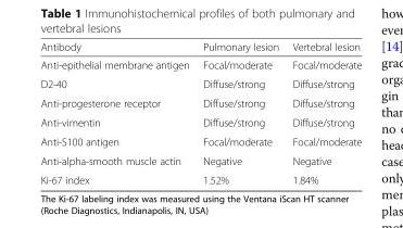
<table><thead><tr><td>Antibody</td><td>Pulmonary lesion</td><td>Vertebral lesion</td></tr></thead><tbody><tr><td>Anti-epithelial membrane antigen</td><td>Focal/moderate</td><td>Focal/moderate</td></tr><tr><td>D2-40</td><td>Diffuse/strong</td><td>Diffuse/strong</td></tr><tr><td>Anti-progesterone receptor</td><td>Diffuse/strong</td><td>Diffuse/strong</td></tr><tr><td>Anti-vimentin</td><td>Diffuse/strong</td><td>Diffuse/strong</td></tr><tr><td>Anti-S100 antigen</td><td>Focal/moderate</td><td>Focal/moderate</td></tr><tr><td>Anti-alpha-smooth muscle actin</td><td>Negative</td><td>Negative</td></tr><tr><td>Ki-67 index</td><td>1.52%</td><td>1.84%</td></tr></tbody></table>